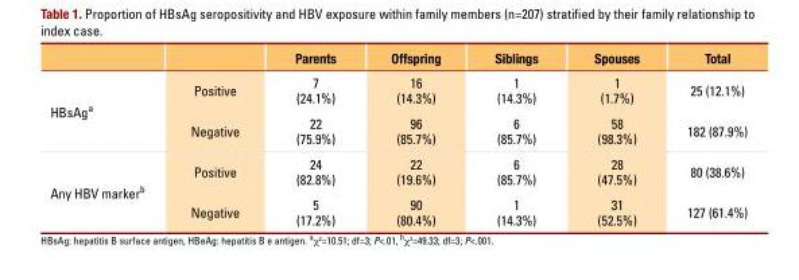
<table><thead><tr><td></td><td></td><td>Parents</td><td>Offspring</td><td>Siblings</td><td>Spouses</td><td>Total</td></tr></thead><tbody><tr><td rowspan="2">hbsAg<sup>a</sup></td><td>positive</td><td>7 (24.1%)</td><td>16 (14.3%)</td><td>1 (14.3%)</td><td>1 (1.7%)</td><td>25 (12.1%)</td></tr><tr><td>Negative</td><td>22 (75.9%)</td><td>96 (85.7%)</td><td>6 (85.7%)</td><td>58 (98.3%)</td><td>182 (87.9%)</td></tr><tr><td rowspan="2">Any hbV marker<sup>b</sup></td><td>positive</td><td>24 (82.8%)</td><td>22 (19.6%)</td><td>6 (85.7%)</td><td>28 (47.5%)</td><td>80 (38.6%)</td></tr><tr><td>Negative</td><td>5 (17.2%)</td><td>90 (80.4%)</td><td>1 (14.3%)</td><td>31 (52.5%)</td><td>127 (61.4%)</td></tr></tbody></table>